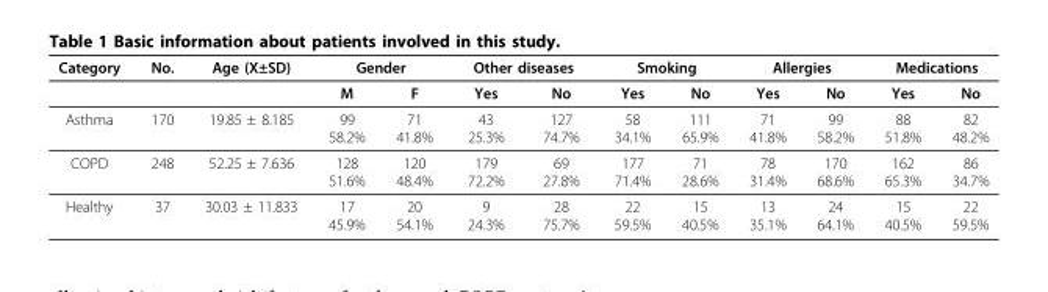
<table><thead><tr><td rowspan="2">Category</td><td rowspan="2">No.</td><td rowspan="2">Age (X±SD)</td><td colspan="2">Gender</td><td colspan="2">Other diseases</td><td colspan="2">Smoking</td><td colspan="2">Allergies</td><td colspan="2">Medications</td></tr><tr><td>M</td><td>F</td><td>Yes</td><td>No</td><td>Yes</td><td>No</td><td>Yes</td><td>No</td><td>Yes</td><td>No</td></tr></thead><tbody><tr><td>Asthma</td><td>170</td><td>19.85 ± 8.185</td><td>99 58.2%</td><td>71 41.8%</td><td>43 25.3%</td><td>127 74.7%</td><td>58 34.1%</td><td>111 65.9%</td><td>71 41.8%</td><td>99 58.2%</td><td>88 51.8%</td><td>82 48.2%</td></tr><tr><td>COPD</td><td>248</td><td>52.25 ± 7.636</td><td>128 51.6%</td><td>120 48.4%</td><td>179 72.2%</td><td>69 27.8%</td><td>177 71.4%</td><td>71 28.6%</td><td>78 31.4%</td><td>170 68.6%</td><td>162 65.3%</td><td>86 34.7%</td></tr><tr><td>Healthy</td><td>37</td><td>30.03 ± 11.833</td><td>17 45.9%</td><td>20 54.1%</td><td>9 24.3%</td><td>28 75.7%</td><td>22 59.5%</td><td>15 40.5%</td><td>13 35.1%</td><td>24 64.1%</td><td>15 40.5%</td><td>22 59.5%</td></tr></tbody></table>